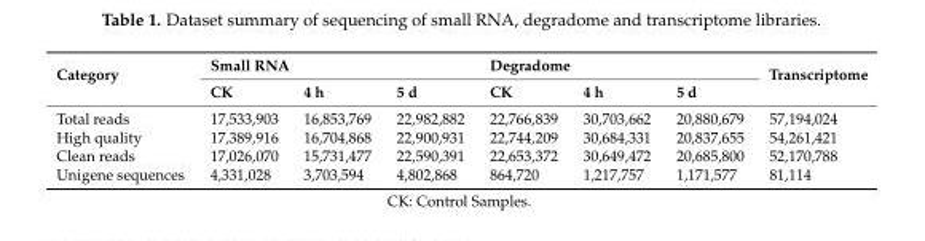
<table><thead><tr><td rowspan="2">Category</td><td colspan="3">Small RNA</td><td colspan="3">Degradome</td><td rowspan="2">Transcriptome</td></tr><tr><td>CK</td><td>4 h</td><td>5 d</td><td>CK</td><td>4 h</td><td>5 d</td></tr></thead><tbody><tr><td>Total reads</td><td>17,533,903</td><td>16,853,769</td><td>22,982,882</td><td>22,766,839</td><td>30,703,662</td><td>20,880,679</td><td>57,194,024</td></tr><tr><td>High quality</td><td>17,389,916</td><td>16,704,868</td><td>22,900,931</td><td>22,744,209</td><td>30,684,331</td><td>20,837,655</td><td>54,261,421</td></tr><tr><td>Clean reads</td><td>17,026,070</td><td>15,731,477</td><td>22,590,391</td><td>22,653,372</td><td>30,649,472</td><td>20,685,800</td><td>52,170,788</td></tr><tr><td>Unigene sequences</td><td>4,331,028</td><td>3,703,594</td><td>4,802,868</td><td>864,720</td><td>1,217,757</td><td>1,171,577</td><td>81,114</td></tr></tbody></table>